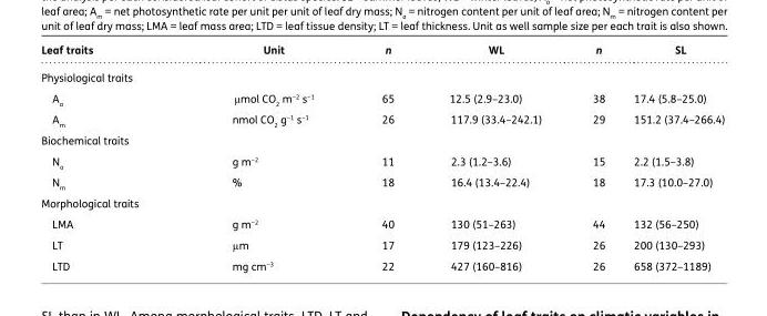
<table><thead><tr><td>Leaf traits</td><td>Unit</td><td>n</td><td>WL</td><td>n</td><td>SL</td></tr></thead><tbody><tr><td colspan="6">Physiological traits</td></tr><tr><td>A<sub>a</sub></td><td>μmol CO<sub>2</sub> m<sup>−2</sup> s<sup>−1</sup></td><td>65</td><td>12.5 (2.9–23.0)</td><td>38</td><td>17.4 (5.8–25.0)</td></tr><tr><td>A<sub>m</sub></td><td>nmol CO<sub>2</sub> g<sup>−1</sup> s<sup>−1</sup></td><td>26</td><td>117.9 (33.4–242.1)</td><td>29</td><td>151.2 (37.4–266.4)</td></tr><tr><td colspan="6">Biochemical traits</td></tr><tr><td>N<sub>a</sub></td><td>g m<sup>−2</sup></td><td>11</td><td>2.3 (1.2–3.6)</td><td>15</td><td>2.2 (1.5–3.8)</td></tr><tr><td>N<sub>m</sub></td><td>%</td><td>18</td><td>16.4 (13.4–22.4)</td><td>18</td><td>17.3 (10.0–27.0)</td></tr><tr><td colspan="6">Morphological traits</td></tr><tr><td>LMA</td><td>g m<sup>−2</sup></td><td>40</td><td>130 (51–263)</td><td>44</td><td>132 (56–250)</td></tr><tr><td>LT</td><td>μm</td><td>17</td><td>179 (123–226)</td><td>26</td><td>200 (130–293)</td></tr><tr><td>LTD</td><td>mg cm<sup>−3</sup></td><td>22</td><td>427 (160–816)</td><td>26</td><td>658 (372–1189)</td></tr></tbody></table>